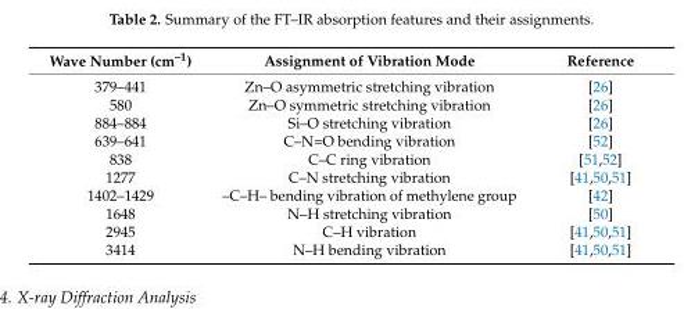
<table><thead><tr><td>Wave Number (cm<sup>–1</sup>)</td><td>Assignment of Vibration Mode</td><td>Reference</td></tr></thead><tbody><tr><td>379–441</td><td>Zn–O asymmetric stretching vibration</td><td>[26]</td></tr><tr><td>580</td><td>Zn–O symmetric stretching vibration</td><td>[26]</td></tr><tr><td>884–884</td><td>Si–O stretching vibration</td><td>[26]</td></tr><tr><td>639–641</td><td>C–N=O bending vibration</td><td>[52]</td></tr><tr><td>838</td><td>C–C ring vibration</td><td>[51,52]</td></tr><tr><td>1277</td><td>C–N stretching vibration</td><td>[41,50,51]</td></tr><tr><td>1402–1429</td><td>–C–H– bending vibration of methylene group</td><td>[42]</td></tr><tr><td>1648</td><td>N–H stretching vibration</td><td>[50]</td></tr><tr><td>2945</td><td>C–H vibration</td><td>[41,50,51]</td></tr><tr><td>3414</td><td>N–H bending vibration</td><td>[41,50,51]</td></tr></tbody></table>